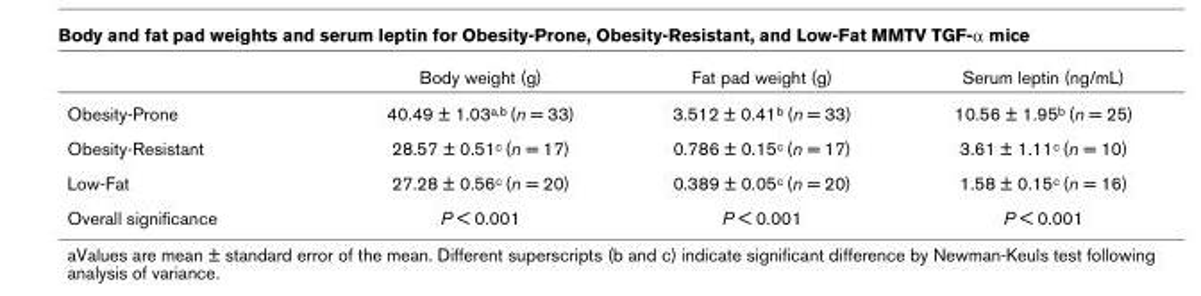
<table><thead><tr><td></td><td>Body weight (g)</td><td>Fat pad weight (g)</td><td>Serum leptin (ng/mL)</td></tr></thead><tbody><tr><td>Obesity-Prone</td><td>40.49 ± 1.03<sup>a,b</sup> (n = 33)</td><td>3.512 ± 0.41<sup>b</sup> (n = 33)</td><td>10.56 ± 1.95<sup>b</sup> (n = 25)</td></tr><tr><td>Obesity-Resistant</td><td>28.57 ± 0.51<sup>c</sup> (n = 17)</td><td>0.786 ± 0.15<sup>c</sup> (n = 17)</td><td>3.61 ± 1.11<sup>c</sup> (n = 10)</td></tr><tr><td>Low-Fat</td><td>27.28 ± 0.56<sup>c</sup> (n = 20)</td><td>0.389 ± 0.05<sup>c</sup> (n = 20)</td><td>1.58 ± 0.15<sup>c</sup> (n = 16)</td></tr><tr><td>Overall significance</td><td>P &lt; 0.001</td><td>P &lt; 0.001</td><td>P &lt; 0.001</td></tr></tbody></table>